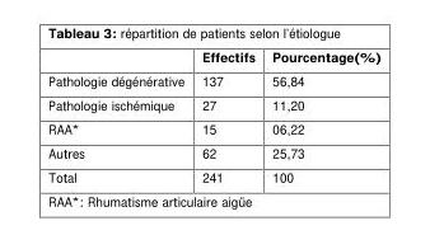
<table><thead><tr><td></td><td>Effectifs</td><td>Pourcentage(%)</td></tr></thead><tbody><tr><td>Pathologie dégénérative</td><td>137</td><td>56,84</td></tr><tr><td>Pathologie ischémique</td><td>27</td><td>11,20</td></tr><tr><td>RAA*</td><td>15</td><td>06,22</td></tr><tr><td>Autres</td><td>62</td><td>25,73</td></tr><tr><td>Total</td><td>241</td><td>100</td></tr></tbody></table>